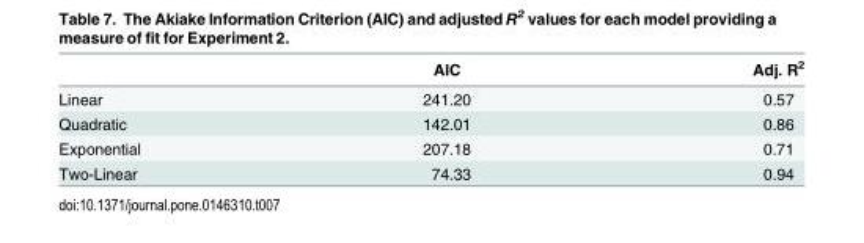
<table><thead><tr><td></td><td>AIC</td><td>Adj. R<sup>2</sup></td></tr></thead><tbody><tr><td>Linear</td><td>241.20</td><td>0.57</td></tr><tr><td>Quadratic</td><td>142.01</td><td>0.86</td></tr><tr><td>Exponential</td><td>207.18</td><td>0.71</td></tr><tr><td>Two-Linear</td><td>74.33</td><td>0.94</td></tr></tbody></table>